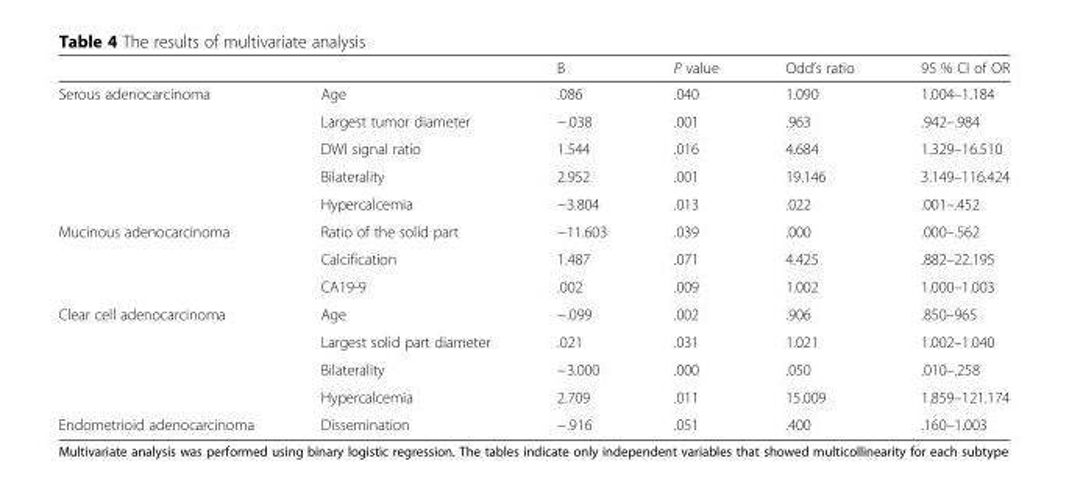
<table><thead><tr><td></td><td></td><td>B</td><td>P value</td><td>Odd’s ratio</td><td>95 % CI of OR</td></tr></thead><tbody><tr><td rowspan="5">Serous adenocarcinoma</td><td>Age</td><td>.086</td><td>.040</td><td>1.090</td><td>1.004–1.184</td></tr><tr><td>Largest tumor diameter</td><td>−.038</td><td>.001</td><td>.963</td><td>.942–.984</td></tr><tr><td>DWI signal ratio</td><td>1.544</td><td>.016</td><td>4.684</td><td>1.329–16.510</td></tr><tr><td>Bilaterality</td><td>2.952</td><td>.001</td><td>19.146</td><td>3.149–116.424</td></tr><tr><td>Hypercalcemia</td><td>−3.804</td><td>.013</td><td>.022</td><td>.001–.452</td></tr><tr><td rowspan="3">Mucinous adenocarcinoma</td><td>Ratio of the solid part</td><td>−11.603</td><td>.039</td><td>.000</td><td>.000–.562</td></tr><tr><td>Calcification</td><td>1.487</td><td>.071</td><td>4.425</td><td>.882–22.195</td></tr><tr><td>CA19-9</td><td>.002</td><td>.009</td><td>1.002</td><td>1.000–1.003</td></tr><tr><td rowspan="4">Clear cell adenocarcinoma</td><td>Age</td><td>−.099</td><td>.002</td><td>.906</td><td>.850–965</td></tr><tr><td>Largest solid part diameter</td><td>.021</td><td>.031</td><td>1.021</td><td>1.002–1.040</td></tr><tr><td>Bilaterality</td><td>−3.000</td><td>.000</td><td>.050</td><td>.010–.258</td></tr><tr><td>Hypercalcemia</td><td>2.709</td><td>.011</td><td>15.009</td><td>1.859–121.174</td></tr><tr><td>Endometrioid adenocarcinoma</td><td>Dissemination</td><td>−.916</td><td>.051</td><td>.400</td><td>.160–1.003</td></tr></tbody></table>